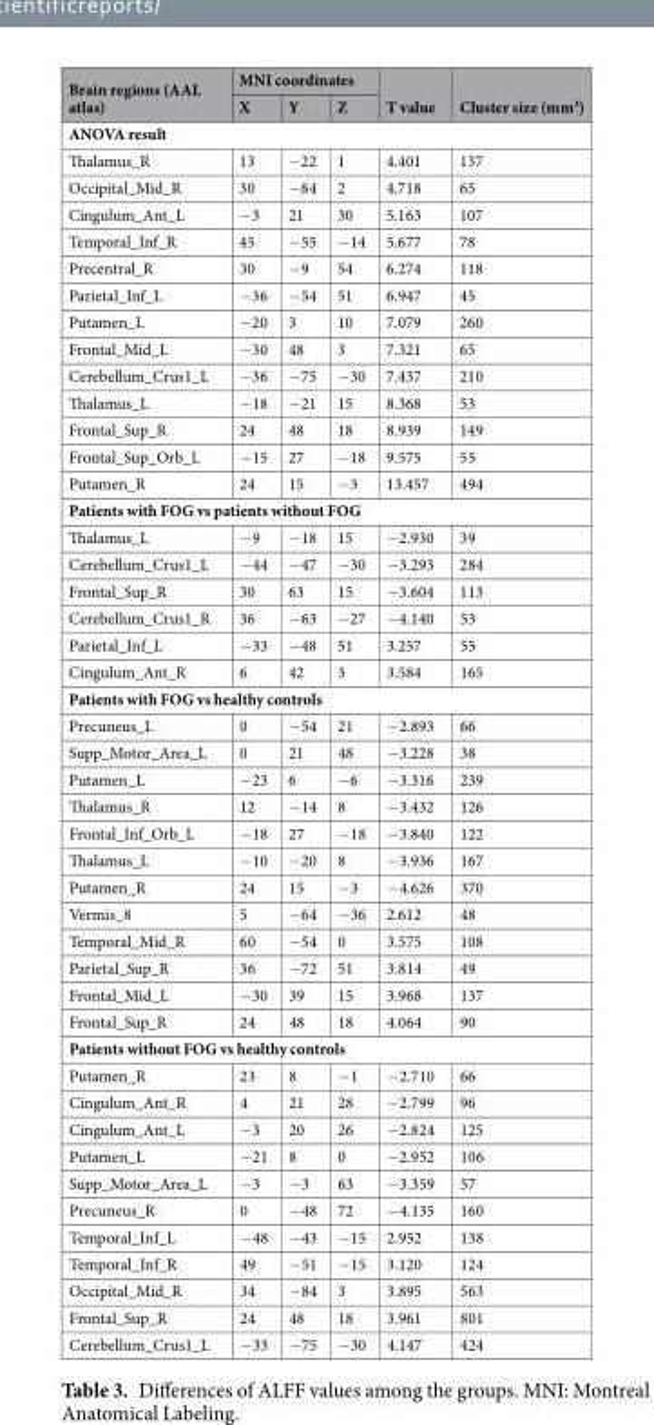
<table><thead><tr><td rowspan="2">Brain regions (AAL atlas)</td><td colspan="3">MNI coordinates</td><td rowspan="2">T value</td><td rowspan="2">Cluster size (mm<sup>3</sup>)</td></tr><tr><td>X</td><td>Y</td><td>Z</td></tr></thead><tbody><tr><td colspan="6">ANOVA result</td></tr><tr><td>Thalamus_R</td><td>13</td><td>−22</td><td>1</td><td>4.401</td><td>137</td></tr><tr><td>Occipital_Mid_R</td><td>30</td><td>−84</td><td>2</td><td>4.718</td><td>65</td></tr><tr><td>Cingulum_Ant_L</td><td>−3</td><td>21</td><td>30</td><td>5.163</td><td>107</td></tr><tr><td>Temporal_Inf_R</td><td>45</td><td>−55</td><td>−14</td><td>5.677</td><td>78</td></tr><tr><td>Precentral_R</td><td>30</td><td>−9</td><td>54</td><td>6.274</td><td>118</td></tr><tr><td>Parietal_Inf_L</td><td>−36</td><td>−54</td><td>51</td><td>6.947</td><td>45</td></tr><tr><td>Putamen_L</td><td>−20</td><td>3</td><td>10</td><td>7.079</td><td>260</td></tr><tr><td>Frontal_Mid_L</td><td>−30</td><td>48</td><td>3</td><td>7.321</td><td>65</td></tr><tr><td>Cerebellum_Crus1_L</td><td>−36</td><td>−75</td><td>−30</td><td>7.437</td><td>210</td></tr><tr><td>Thalamus_L</td><td>−18</td><td>−21</td><td>15</td><td>8.368</td><td>53</td></tr><tr><td>Frontal_Sup_R</td><td>24</td><td>48</td><td>18</td><td>8.939</td><td>149</td></tr><tr><td>Frontal_Sup_Orb_L</td><td>−15</td><td>27</td><td>−18</td><td>9.575</td><td>55</td></tr><tr><td>Putamen_R</td><td>24</td><td>15</td><td>−3</td><td>13.457</td><td>494</td></tr><tr><td colspan="6">Patients with FOG vs patients without FOG</td></tr><tr><td>Thalamus_L</td><td>−9</td><td>−18</td><td>15</td><td>−2.930</td><td>39</td></tr><tr><td>Cerebellum_Crus1_L</td><td>−44</td><td>−47</td><td>−30</td><td>−3.293</td><td>284</td></tr><tr><td>Frontal_Sup_R</td><td>30</td><td>63</td><td>15</td><td>−3.604</td><td>113</td></tr><tr><td>Cerebellum_Crus1_R</td><td>36</td><td>−63</td><td>−27</td><td>−4.140</td><td>53</td></tr><tr><td>Parietal_Inf_L</td><td>−33</td><td>−48</td><td>51</td><td>3.257</td><td>55</td></tr><tr><td>Cingulum_Ant_R</td><td>6</td><td>42</td><td>3</td><td>3.584</td><td>165</td></tr><tr><td colspan="6">Patients with FOG vs healthy controls</td></tr><tr><td>Precuneus_L</td><td>0</td><td>−54</td><td>21</td><td>−2.893</td><td>66</td></tr><tr><td>Supp_Motor_Area_L</td><td>0</td><td>21</td><td>48</td><td>−3.228</td><td>38</td></tr><tr><td>Putamen_L</td><td>−23</td><td>6</td><td>−6</td><td>−3.316</td><td>239</td></tr><tr><td>Thalamus_R</td><td>12</td><td>−14</td><td>8</td><td>−3.432</td><td>126</td></tr><tr><td>Frontal_Inf_Orb_L</td><td>−18</td><td>27</td><td>−18</td><td>−3.840</td><td>122</td></tr><tr><td>Thalamus_L</td><td>−10</td><td>−20</td><td>8</td><td>−3.936</td><td>167</td></tr><tr><td>Putamen_R</td><td>24</td><td>15</td><td>−3</td><td>−4.626</td><td>370</td></tr><tr><td>Vermis_8</td><td>5</td><td>−64</td><td>−36</td><td>2.612</td><td>48</td></tr><tr><td>Temporal_Mid_R</td><td>60</td><td>−54</td><td>0</td><td>3.575</td><td>108</td></tr><tr><td>Parietal_Sup_R</td><td>36</td><td>−72</td><td>51</td><td>3.814</td><td>49</td></tr><tr><td>Frontal_Mid_L</td><td>−30</td><td>39</td><td>15</td><td>3.968</td><td>137</td></tr><tr><td>Frontal_Sup_R</td><td>24</td><td>48</td><td>18</td><td>4.064</td><td>90</td></tr><tr><td colspan="6">Patients without FOG vs healthy controls</td></tr><tr><td>Putamen_R</td><td>23</td><td>8</td><td>−1</td><td>−2.710</td><td>66</td></tr><tr><td>Cingulum_Ant_R</td><td>4</td><td>21</td><td>28</td><td>−2.799</td><td>96</td></tr><tr><td>Cingulum_Ant_L</td><td>−3</td><td>20</td><td>26</td><td>−2.824</td><td>125</td></tr><tr><td>Putamen_L</td><td>−21</td><td>8</td><td>0</td><td>−2.952</td><td>106</td></tr><tr><td>Supp_Motor_Area_L</td><td>−3</td><td>−3</td><td>63</td><td>−3.359</td><td>57</td></tr><tr><td>Precuneus_R</td><td>0</td><td>−48</td><td>72</td><td>−4.135</td><td>160</td></tr><tr><td>Temporal_Inf_L</td><td>−48</td><td>−43</td><td>−15</td><td>2.952</td><td>138</td></tr><tr><td>Temporal_Inf_R</td><td>49</td><td>−51</td><td>−15</td><td>3.120</td><td>124</td></tr><tr><td>Occipital_Mid_R</td><td>34</td><td>−84</td><td>3</td><td>3.895</td><td>563</td></tr><tr><td>Frontal_Sup_R</td><td>24</td><td>48</td><td>18</td><td>3.961</td><td>801</td></tr><tr><td>Cerebellum_Crus1_L</td><td>−33</td><td>−75</td><td>−30</td><td>4.147</td><td>424</td></tr></tbody></table>